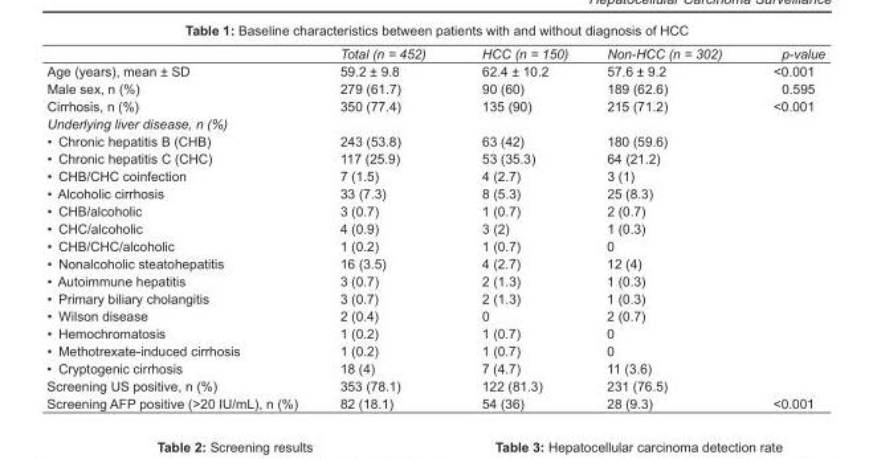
<table><thead><tr><td></td><td>Total (n = 452)</td><td>HCC (n = 150)</td><td>Non-HCC (n = 302)</td><td>p-value</td></tr></thead><tbody><tr><td>Age (years), mean ± SD</td><td>59.2 ± 9.8</td><td>62.4 ± 10.2</td><td>57.6 ± 9.2</td><td>&lt;0.001</td></tr><tr><td>Male sex, n (%)</td><td>279 (61.7)</td><td>90 (60)</td><td>189 (62.6)</td><td>0.595</td></tr><tr><td>Cirrhosis, n (%)</td><td>350 (77.4)</td><td>135 (90)</td><td>215 (71.2)</td><td>&lt;0.001</td></tr><tr><td colspan="5">Underlying liver disease, n (%)</td></tr><tr><td>• Chronic hepatitis B (CHB)</td><td>243 (53.8)</td><td>63 (42)</td><td>180 (59.6)</td><td></td></tr><tr><td>• Chronic hepatitis C (CHC)</td><td>117 (25.9)</td><td>53 (35.3)</td><td>64 (21.2)</td><td></td></tr><tr><td>• CHB/CHC coinfection</td><td>7 (1.5)</td><td>4 (2.7)</td><td>3 (1)</td><td></td></tr><tr><td>• Alcoholic cirrhosis</td><td>33 (7.3)</td><td>8 (5.3)</td><td>25 (8.3)</td><td></td></tr><tr><td>• CHB/alcoholic</td><td>3 (0.7)</td><td>1 (0.7)</td><td>2 (0.7)</td><td></td></tr><tr><td>• CHC/alcoholic</td><td>4 (0.9)</td><td>3 (2)</td><td>1 (0.3)</td><td></td></tr><tr><td>• CHB/CHC/alcoholic</td><td>1 (0.2)</td><td>1 (0.7)</td><td>0</td><td></td></tr><tr><td>• Nonalcoholic steatohepatitis</td><td>16 (3.5)</td><td>4 (2.7)</td><td>12 (4)</td><td></td></tr><tr><td>• Autoimmune hepatitis</td><td>3 (0.7)</td><td>2 (1.3)</td><td>1 (0.3)</td><td></td></tr><tr><td>• Primary biliary cholangitis</td><td>3 (0.7)</td><td>2 (1.3)</td><td>1 (0.3)</td><td></td></tr><tr><td>• Wilson disease</td><td>2 (0.4)</td><td>0</td><td>2 (0.7)</td><td></td></tr><tr><td>• Hemochromatosis</td><td>1 (0.2)</td><td>1 (0.7)</td><td>0</td><td></td></tr><tr><td>• Methotrexate-induced cirrhosis</td><td>1 (0.2)</td><td>1 (0.7)</td><td>0</td><td></td></tr><tr><td>• Cryptogenic cirrhosis</td><td>18 (4)</td><td>7 (4.7)</td><td>11 (3.6)</td><td></td></tr><tr><td>Screening US positive, n (%)</td><td>353 (78.1)</td><td>122 (81.3)</td><td>231 (76.5)</td><td></td></tr><tr><td>Screening AFP positive (&gt;20 IU/mL), n (%)</td><td>82 (18.1)</td><td>54 (36)</td><td>28 (9.3)</td><td>&lt;0.001</td></tr></tbody></table>